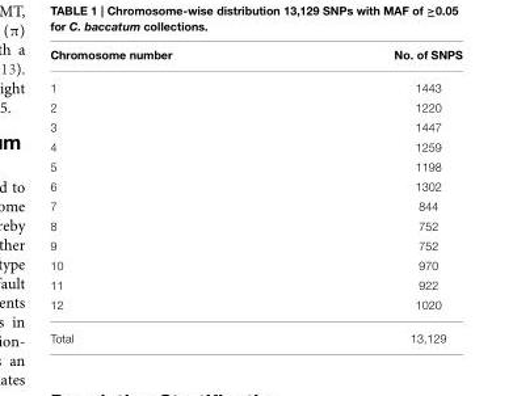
<table><thead><tr><td>Chromosome number</td><td>No. of SNPS</td></tr></thead><tbody><tr><td>1</td><td>1443</td></tr><tr><td>2</td><td>1220</td></tr><tr><td>3</td><td>1447</td></tr><tr><td>4</td><td>1259</td></tr><tr><td>5</td><td>1198</td></tr><tr><td>6</td><td>1302</td></tr><tr><td>7</td><td>844</td></tr><tr><td>8</td><td>752</td></tr><tr><td>9</td><td>752</td></tr><tr><td>10</td><td>970</td></tr><tr><td>11</td><td>922</td></tr><tr><td>12</td><td>1020</td></tr><tr><td>Total</td><td>13,129</td></tr></tbody></table>